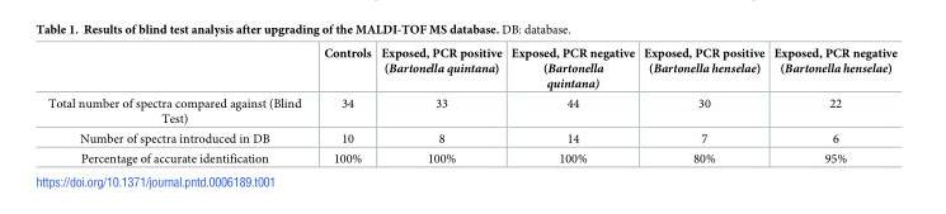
<table><thead><tr><td></td><td>Controls</td><td>Exposed, PCR positive (Bartonella quintana)</td><td>Exposed, PCR negative (Bartonella quintana)</td><td>Exposed, PCR positive (Bartonella henselae)</td><td>Exposed, PCR negative (Bartonella henselae)</td></tr></thead><tbody><tr><td>Total number of spectra compared against (Blind Test)</td><td>34</td><td>33</td><td>44</td><td>30</td><td>22</td></tr><tr><td>Number of spectra introduced in DB</td><td>10</td><td>8</td><td>14</td><td>7</td><td>6</td></tr><tr><td>Percentage of accurate identification</td><td>100%</td><td>100%</td><td>100%</td><td>80%</td><td>95%</td></tr></tbody></table>